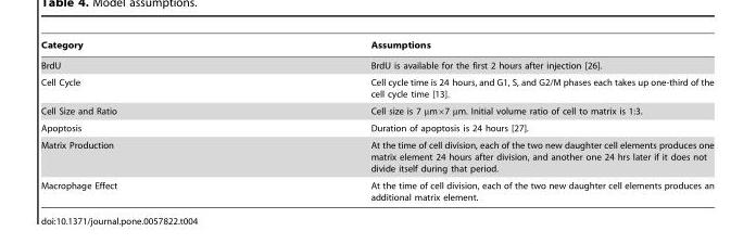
<table><thead><tr><td>Category</td><td>Assumptions</td></tr></thead><tbody><tr><td>BrdU</td><td>BrdU is available for the first 2 hours after injection [26].</td></tr><tr><td>Cell Cycle</td><td>Cell cycle time is 24 hours, and G1, S, and G2/M phases each takes up one-third of the cell cycle time [13].</td></tr><tr><td>Cell Size and Ratio</td><td>Cell size is 7 µm×7 µm. Initial volume ratio of cell to matrix is 1:3.</td></tr><tr><td>Apoptosis</td><td>Duration of apoptosis is 24 hours [27].</td></tr><tr><td>Matrix Production</td><td>At the time of cell division, each of the two new daughter cell elements produces one matrix element 24 hours after division, and another one 24 hrs later if it does not divide itself during that period.</td></tr><tr><td>Macrophage Effect</td><td>At the time of cell division, each of the two new daughter cell elements produces an additional matrix element.</td></tr></tbody></table>